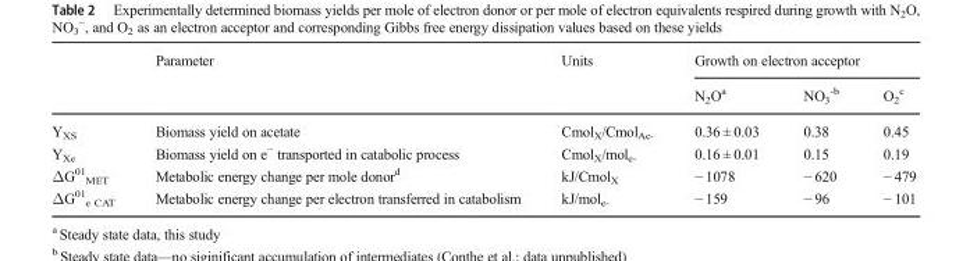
<table><thead><tr><td rowspan="2"></td><td rowspan="2">Parameter</td><td rowspan="2">Units</td><td colspan="3">Growth on electron acceptor</td></tr><tr><td>N<sub>2</sub>O<sup>a</sup></td><td>NO<sub>3</sub> <sup>-b</sup></td><td>O<sub>2</sub> <sup>c</sup></td></tr></thead><tbody><tr><td>Y<sub>XS</sub></td><td>Biomass yield on acetate</td><td>Cmol<sub>X</sub>/Cmol<sub>Ac-</sub></td><td>0.36 ± 0.03</td><td>0.38</td><td>0.45</td></tr><tr><td>Y<sub>Xe</sub></td><td>Biomass yield on e<sup>−</sup> transported in catabolic process</td><td>Cmol<sub>X</sub>/mol<sub>e-</sub></td><td>0.16 ± 0.01</td><td>0.15</td><td>0.19</td></tr><tr><td>ΔG<sup>01</sup> <sub>MET</sub></td><td>Metabolic energy change per mole donor<sup>d</sup></td><td>kJ/Cmol<sub>X</sub></td><td>− 1078</td><td>− 620</td><td>− 479</td></tr><tr><td>ΔG<sup>01</sup> <sub>e CAT</sub></td><td>Metabolic energy change per electron transferred in catabolism</td><td>kJ/mol<sub>e-</sub></td><td>− 159</td><td>− 96</td><td>− 101</td></tr></tbody></table>